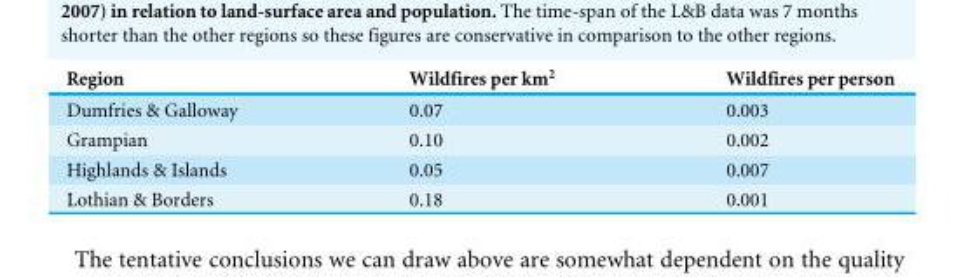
<table><thead><tr><td>Region</td><td>Wildfires per km<sup>2</sup></td><td>Wildfires per person</td></tr></thead><tbody><tr><td>Dumfries &amp; Galloway</td><td>0.07</td><td>0.003</td></tr><tr><td>Grampian</td><td>0.10</td><td>0.002</td></tr><tr><td>Highlands &amp; Islands</td><td>0.05</td><td>0.007</td></tr><tr><td>Lothian &amp; Borders</td><td>0.18</td><td>0.001</td></tr></tbody></table>